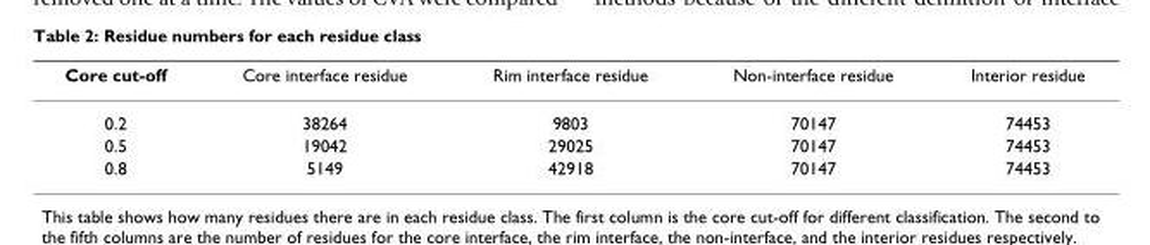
<table><thead><tr><td>Core cut-off</td><td>Core interface residue</td><td>Rim interface residue</td><td>Non-interface residue</td><td>Interior residue</td></tr></thead><tbody><tr><td>0.2</td><td>38264</td><td>9803</td><td>70147</td><td>74453</td></tr><tr><td>0.5</td><td>19042</td><td>29025</td><td>70147</td><td>74453</td></tr><tr><td>0.8</td><td>5149</td><td>42918</td><td>70147</td><td>74453</td></tr></tbody></table>